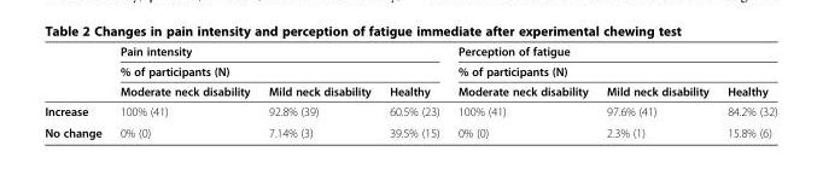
<table><thead><tr><td rowspan="3"></td><td rowspan="2" colspan="3">Pain intensity % of participants (N)</td><td rowspan="2" colspan="3">Perception of fatigue % of participants (N)</td></tr><tr></tr><tr><td>Moderate neck disability</td><td>Mild neck disability</td><td>Healthy</td><td>Moderate neck disability</td><td>Mild neck disability</td><td>Healthy</td></tr></thead><tbody><tr><td>Increase</td><td>100% (41)</td><td>92.8% (39)</td><td>60.5% (23)</td><td>100% (41)</td><td>97.6% (41)</td><td>84.2% (32)</td></tr><tr><td>No change</td><td>0% (0)</td><td>7.14% (3)</td><td>39.5% (15)</td><td>0% (0)</td><td>2.3% (1)</td><td>15.8% (6)</td></tr></tbody></table>